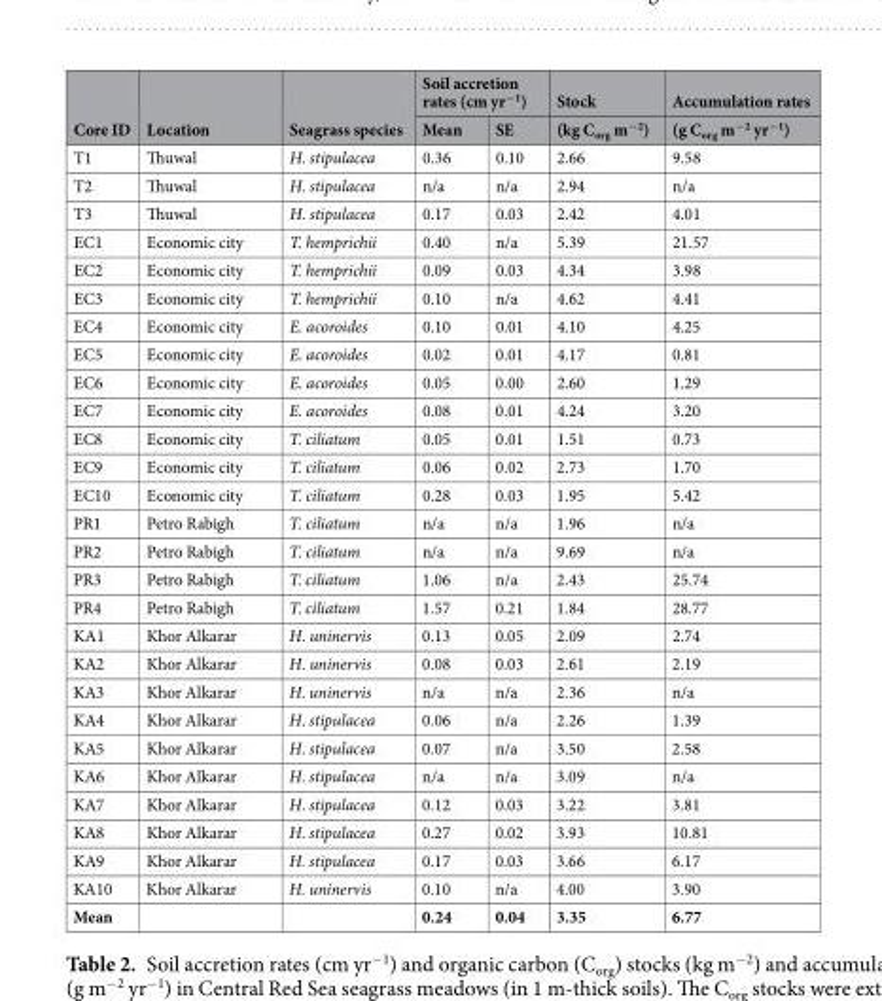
<table><thead><tr><td rowspan="2">Core ID</td><td rowspan="2">Location</td><td rowspan="2">Seagrass species</td><td colspan="2">Soil accretion rates (cm yr<sup>−1</sup>)</td><td rowspan="2">Stock (kg C<sub>org</sub> m<sup>−2</sup>)</td><td rowspan="2">Accumulation rates (g C<sub>org</sub> m<sup>−2</sup> yr<sup>−1</sup>)</td></tr><tr><td>Mean</td><td>SE</td></tr></thead><tbody><tr><td>T1</td><td>Thuwal</td><td>H. stipulacea</td><td>0.36</td><td>0.10</td><td>2.66</td><td>9.58</td></tr><tr><td>T2</td><td>Thuwal</td><td>H. stipulacea</td><td>n/a</td><td>n/a</td><td>2.94</td><td>n/a</td></tr><tr><td>T3</td><td>Thuwal</td><td>H. stipulacea</td><td>0.17</td><td>0.03</td><td>2.42</td><td>4.01</td></tr><tr><td>EC1</td><td>Economic city</td><td>T. hemprichii</td><td>0.40</td><td>n/a</td><td>5.39</td><td>21.57</td></tr><tr><td>EC2</td><td>Economic city</td><td>T. hemprichii</td><td>0.09</td><td>0.03</td><td>4.34</td><td>3.98</td></tr><tr><td>EC3</td><td>Economic city</td><td>T. hemprichii</td><td>0.10</td><td>n/a</td><td>4.62</td><td>4.41</td></tr><tr><td>EC4</td><td>Economic city</td><td>E. acoroides</td><td>0.10</td><td>0.01</td><td>4.10</td><td>4.25</td></tr><tr><td>EC5</td><td>Economic city</td><td>E. acoroides</td><td>0.02</td><td>0.01</td><td>4.17</td><td>0.81</td></tr><tr><td>EC6</td><td>Economic city</td><td>E. acoroides</td><td>0.05</td><td>0.00</td><td>2.60</td><td>1.29</td></tr><tr><td>EC7</td><td>Economic city</td><td>E. acoroides</td><td>0.08</td><td>0.01</td><td>4.24</td><td>3.20</td></tr><tr><td>EC8</td><td>Economic city</td><td>T. ciliatum</td><td>0.05</td><td>0.01</td><td>1.51</td><td>0.73</td></tr><tr><td>EC9</td><td>Economic city</td><td>T. ciliatum</td><td>0.06</td><td>0.02</td><td>2.73</td><td>1.70</td></tr><tr><td>EC10</td><td>Economic city</td><td>T. ciliatum</td><td>0.28</td><td>0.03</td><td>1.95</td><td>5.42</td></tr><tr><td>PR1</td><td>Petro Rabigh</td><td>T. ciliatum</td><td>n/a</td><td>n/a</td><td>1.96</td><td>n/a</td></tr><tr><td>PR2</td><td>Petro Rabigh</td><td>T. ciliatum</td><td>n/a</td><td>n/a</td><td>9.69</td><td>n/a</td></tr><tr><td>PR3</td><td>Petro Rabigh</td><td>T. ciliatum</td><td>1.06</td><td>n/a</td><td>2.43</td><td>25.74</td></tr><tr><td>PR4</td><td>Petro Rabigh</td><td>T. ciliatum</td><td>1.57</td><td>0.21</td><td>1.84</td><td>28.77</td></tr><tr><td>KA1</td><td>Khor Alkarar</td><td>H. uninervis</td><td>0.13</td><td>0.05</td><td>2.09</td><td>2.74</td></tr><tr><td>KA2</td><td>Khor Alkarar</td><td>H. uninervis</td><td>0.08</td><td>0.03</td><td>2.61</td><td>2.19</td></tr><tr><td>KA3</td><td>Khor Alkarar</td><td>H. uninervis</td><td>n/a</td><td>n/a</td><td>2.36</td><td>n/a</td></tr><tr><td>KA4</td><td>Khor Alkarar</td><td>H. stipulacea</td><td>0.06</td><td>n/a</td><td>2.26</td><td>1.39</td></tr><tr><td>KA5</td><td>Khor Alkarar</td><td>H. stipulacea</td><td>0.07</td><td>n/a</td><td>3.50</td><td>2.58</td></tr><tr><td>KA6</td><td>Khor Alkarar</td><td>H. stipulacea</td><td>n/a</td><td>n/a</td><td>3.09</td><td>n/a</td></tr><tr><td>KA7</td><td>Khor Alkarar</td><td>H. stipulacea</td><td>0.12</td><td>0.03</td><td>3.22</td><td>3.81</td></tr><tr><td>KA8</td><td>Khor Alkarar</td><td>H. stipulacea</td><td>0.27</td><td>0.02</td><td>3.93</td><td>10.81</td></tr><tr><td>KA9</td><td>Khor Alkarar</td><td>H. stipulacea</td><td>0.17</td><td>0.03</td><td>3.66</td><td>6.17</td></tr><tr><td>KA10</td><td>Khor Alkarar</td><td>H. uninervis</td><td>0.10</td><td>n/a</td><td>4.00</td><td>3.90</td></tr><tr><td>Mean</td><td></td><td></td><td>0.24</td><td>0.04</td><td>3.35</td><td>6.77</td></tr></tbody></table>